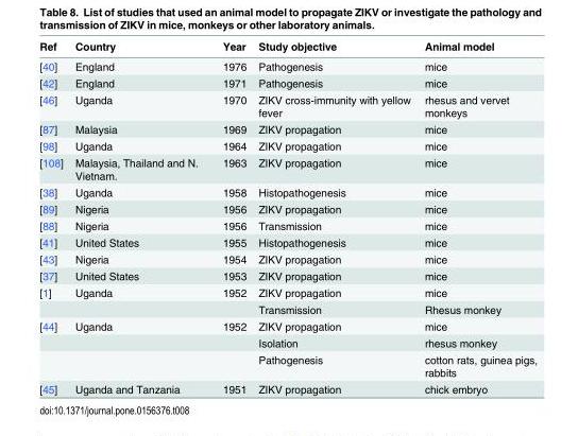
<table><thead><tr><td>Ref</td><td>Country</td><td>Year</td><td>Study objective</td><td>Animal model</td></tr></thead><tbody><tr><td>[40]</td><td>England</td><td>1976</td><td>Pathogenesis</td><td>mice</td></tr><tr><td>[42]</td><td>England</td><td>1971</td><td>Pathogenesis</td><td>mice</td></tr><tr><td>[46]</td><td>Uganda</td><td>1970</td><td>ZIKV cross-immunity with yellow fever</td><td>rhesus and vervet monkeys</td></tr><tr><td>[87]</td><td>Malaysia</td><td>1969</td><td>ZIKV propagation</td><td>mice</td></tr><tr><td>[98]</td><td>Uganda</td><td>1964</td><td>ZIKV propagation</td><td>mice</td></tr><tr><td>[108]</td><td>Malaysia, Thailand and N. Vietnam.</td><td>1963</td><td>ZIKV propagation</td><td>mice</td></tr><tr><td>[38]</td><td>Uganda</td><td>1958</td><td>Histopathogenesis</td><td>mice</td></tr><tr><td>[89]</td><td>Nigeria</td><td>1956</td><td>ZIKV propagation</td><td>mice</td></tr><tr><td>[88]</td><td>Nigeria</td><td>1956</td><td>Transmission</td><td>mice</td></tr><tr><td>[41]</td><td>United States</td><td>1955</td><td>Histopathogenesis</td><td>mice</td></tr><tr><td>[43]</td><td>Nigeria</td><td>1954</td><td>ZIKV propagation</td><td>mice</td></tr><tr><td>[37]</td><td>United States</td><td>1953</td><td>ZIKV propagation</td><td>mice</td></tr><tr><td rowspan="2">[1]</td><td>Uganda</td><td>1952</td><td>ZIKV propagation</td><td>mice</td></tr><tr><td></td><td></td><td>Transmission</td><td>Rhesus monkey</td></tr><tr><td rowspan="3">[44]</td><td>Uganda</td><td>1952</td><td>ZIKV propagation</td><td>mice</td></tr><tr><td></td><td></td><td>Isolation</td><td>rhesus monkey</td></tr><tr><td></td><td></td><td>Pathogenesis</td><td>cotton rats, guinea pigs, rabbits</td></tr><tr><td>[45]</td><td>Uganda and Tanzania</td><td>1951</td><td>ZIKV propagation</td><td>chick embryo</td></tr></tbody></table>